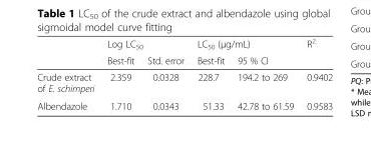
<table><thead><tr><td rowspan="2"></td><td colspan="2">Log LC<sub>50</sub></td><td colspan="2">LC<sub>50</sub> (μg/mL)</td><td rowspan="2">R<sup>2</sup></td></tr><tr><td>Best-fit</td><td>Std. error</td><td>Best-fit</td><td>95 % CI</td></tr></thead><tbody><tr><td>Crude extract of E. schimperi</td><td>2.359</td><td>0.0328</td><td>228.7</td><td>194.2 to 269</td><td>0.9402</td></tr><tr><td>Albendazole</td><td>1.710</td><td>0.0343</td><td>51.33</td><td>42.78 to 61.59</td><td>0.9583</td></tr></tbody></table>